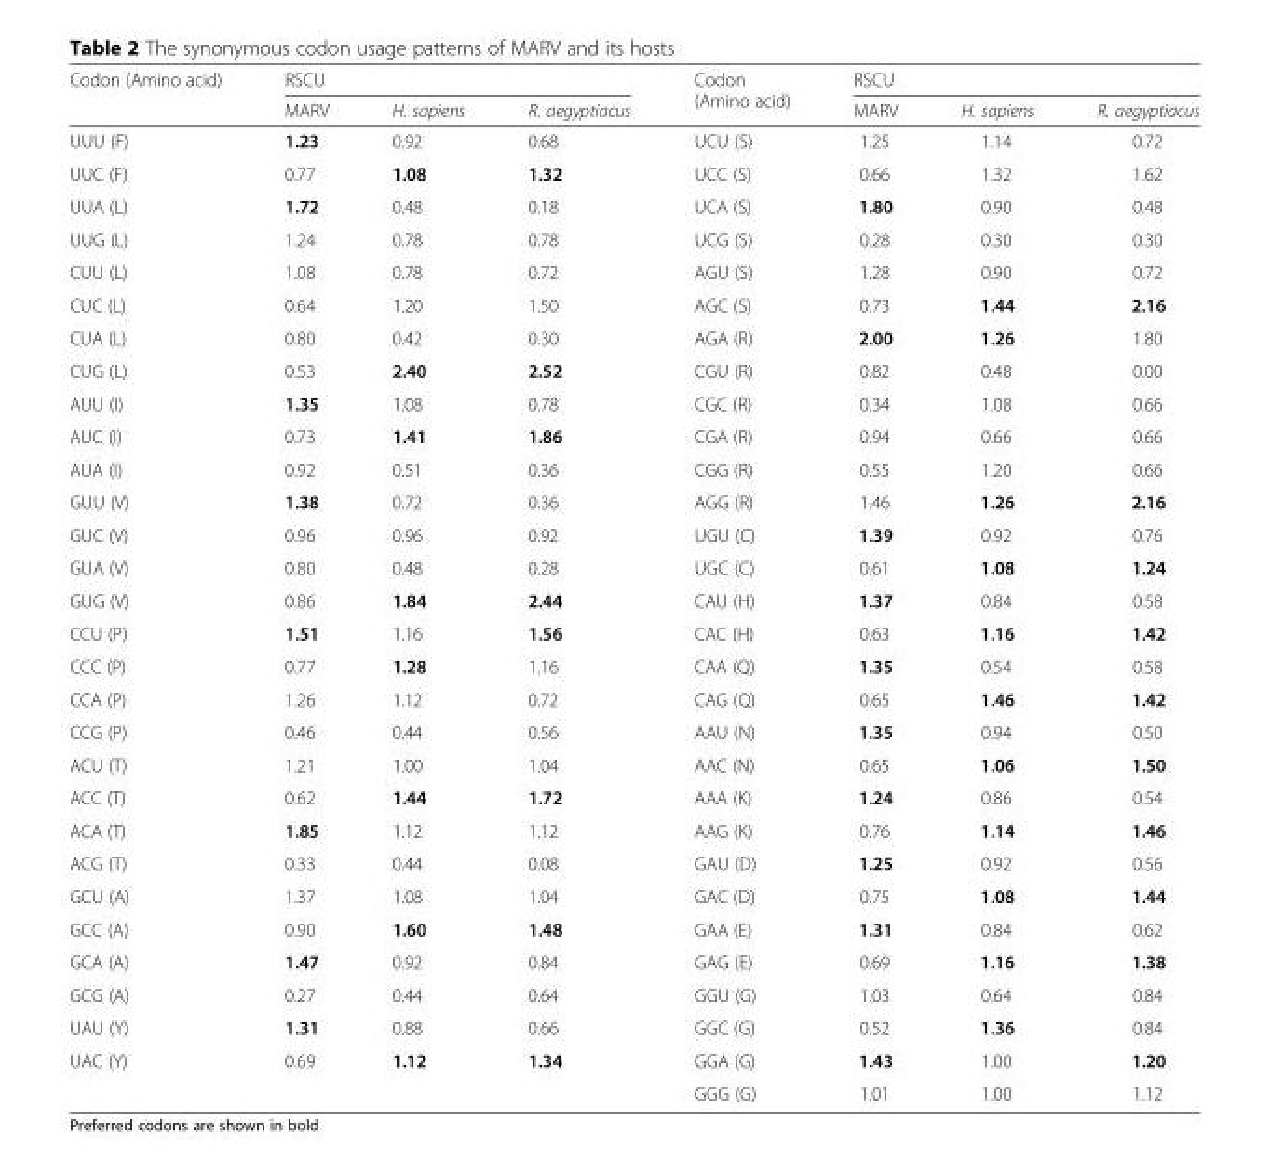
<table><thead><tr><td rowspan="2">Codon (Amino acid)</td><td colspan="3">RSCU</td><td rowspan="2">Codon (Amino acid)</td><td colspan="3">RSCU</td></tr><tr><td>MARV</td><td>H. sapiens</td><td>R. aegyptiacus</td><td>MARV</td><td>H. sapiens</td><td>R. aegyptiacus</td></tr></thead><tbody><tr><td>UUU (F)</td><td>1.23</td><td>0.92</td><td>0.68</td><td>UCU (S)</td><td>1.25</td><td>1.14</td><td>0.72</td></tr><tr><td>UUC (F)</td><td>0.77</td><td>1.08</td><td>1.32</td><td>UCC (S)</td><td>0.66</td><td>1.32</td><td>1.62</td></tr><tr><td>UUA (L)</td><td>1.72</td><td>0.48</td><td>0.18</td><td>UCA (S)</td><td>1.80</td><td>0.90</td><td>0.48</td></tr><tr><td>UUG (L)</td><td>1.24</td><td>0.78</td><td>0.78</td><td>UCG (S)</td><td>0.28</td><td>0.30</td><td>0.30</td></tr><tr><td>CUU (L)</td><td>1.08</td><td>0.78</td><td>0.72</td><td>AGU (S)</td><td>1.28</td><td>0.90</td><td>0.72</td></tr><tr><td>CUC (L)</td><td>0.64</td><td>1.20</td><td>1.50</td><td>AGC (S)</td><td>0.73</td><td>1.44</td><td>2.16</td></tr><tr><td>CUA (L)</td><td>0.80</td><td>0.42</td><td>0.30</td><td>AGA (R)</td><td>2.00</td><td>1.26</td><td>1.80</td></tr><tr><td>CUG (L)</td><td>0.53</td><td>2.40</td><td>2.52</td><td>CGU (R)</td><td>0.82</td><td>0.48</td><td>0.00</td></tr><tr><td>AUU (I)</td><td>1.35</td><td>1.08</td><td>0.78</td><td>CGC (R)</td><td>0.34</td><td>1.08</td><td>0.66</td></tr><tr><td>AUC (I)</td><td>0.73</td><td>1.41</td><td>1.86</td><td>CGA (R)</td><td>0.94</td><td>0.66</td><td>0.66</td></tr><tr><td>AUA (I)</td><td>0.92</td><td>0.51</td><td>0.36</td><td>CGG (R)</td><td>0.55</td><td>1.20</td><td>0.66</td></tr><tr><td>GUU (V)</td><td>1.38</td><td>0.72</td><td>0.36</td><td>AGG (R)</td><td>1.46</td><td>1.26</td><td>2.16</td></tr><tr><td>GUC (V)</td><td>0.96</td><td>0.96</td><td>0.92</td><td>UGU (C)</td><td>1.39</td><td>0.92</td><td>0.76</td></tr><tr><td>GUA (V)</td><td>0.80</td><td>0.48</td><td>0.28</td><td>UGC (C)</td><td>0.61</td><td>1.08</td><td>1.24</td></tr><tr><td>GUG (V)</td><td>0.86</td><td>1.84</td><td>2.44</td><td>CAU (H)</td><td>1.37</td><td>0.84</td><td>0.58</td></tr><tr><td>CCU (P)</td><td>1.51</td><td>1.16</td><td>1.56</td><td>CAC (H)</td><td>0.63</td><td>1.16</td><td>1.42</td></tr><tr><td>CCC (P)</td><td>0.77</td><td>1.28</td><td>1.16</td><td>CAA (Q)</td><td>1.35</td><td>0.54</td><td>0.58</td></tr><tr><td>CCA (P)</td><td>1.26</td><td>1.12</td><td>0.72</td><td>CAG (Q)</td><td>0.65</td><td>1.46</td><td>1.42</td></tr><tr><td>CCG (P)</td><td>0.46</td><td>0.44</td><td>0.56</td><td>AAU (N)</td><td>1.35</td><td>0.94</td><td>0.50</td></tr><tr><td>ACU (T)</td><td>1.21</td><td>1.00</td><td>1.04</td><td>AAC (N)</td><td>0.65</td><td>1.06</td><td>1.50</td></tr><tr><td>ACC (T)</td><td>0.62</td><td>1.44</td><td>1.72</td><td>AAA (K)</td><td>1.24</td><td>0.86</td><td>0.54</td></tr><tr><td>ACA (T)</td><td>1.85</td><td>1.12</td><td>1.12</td><td>AAG (K)</td><td>0.76</td><td>1.14</td><td>1.46</td></tr><tr><td>ACG (T)</td><td>0.33</td><td>0.44</td><td>0.08</td><td>GAU (D)</td><td>1.25</td><td>0.92</td><td>0.56</td></tr><tr><td>GCU (A)</td><td>1.37</td><td>1.08</td><td>1.04</td><td>GAC (D)</td><td>0.75</td><td>1.08</td><td>1.44</td></tr><tr><td>GCC (A)</td><td>0.90</td><td>1.60</td><td>1.48</td><td>GAA (E)</td><td>1.31</td><td>0.84</td><td>0.62</td></tr><tr><td>GCA (A)</td><td>1.47</td><td>0.92</td><td>0.84</td><td>GAG (E)</td><td>0.69</td><td>1.16</td><td>1.38</td></tr><tr><td>GCG (A)</td><td>0.27</td><td>0.44</td><td>0.64</td><td>GGU (G)</td><td>1.03</td><td>0.64</td><td>0.84</td></tr><tr><td>UAU (Y)</td><td>1.31</td><td>0.88</td><td>0.66</td><td>GGC (G)</td><td>0.52</td><td>1.36</td><td>0.84</td></tr><tr><td rowspan="2">UAC (Y)</td><td>0.69</td><td>1.12</td><td>1.34</td><td>GGA (G)</td><td>1.43</td><td>1.00</td><td>1.20</td></tr><tr><td></td><td></td><td></td><td>GGG (G)</td><td>1.01</td><td>1.00</td><td>1.12</td></tr></tbody></table>